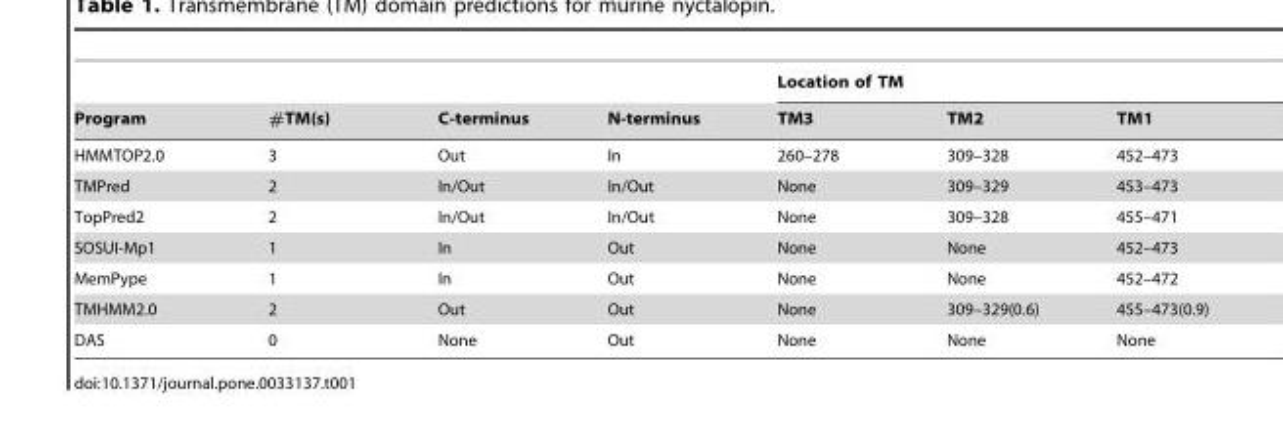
<table><thead><tr><td rowspan="2">Program</td><td rowspan="2">#TM(s)</td><td rowspan="2">C-terminus</td><td rowspan="2">N-terminus</td><td colspan="3">Location of TM</td></tr><tr><td>TM3</td><td>TM2</td><td>TM1</td></tr></thead><tbody><tr><td>HMMTOP2.0</td><td>3</td><td>Out</td><td>In</td><td>260–278</td><td>309–328</td><td>452–473</td></tr><tr><td>TMPred</td><td>2</td><td>In/Out</td><td>In/Out</td><td>None</td><td>309–329</td><td>453–473</td></tr><tr><td>TopPred2</td><td>2</td><td>In/Out</td><td>In/Out</td><td>None</td><td>309–328</td><td>455–471</td></tr><tr><td>SOSUI-Mp1</td><td>1</td><td>In</td><td>Out</td><td>None</td><td>None</td><td>452–473</td></tr><tr><td>MemPype</td><td>1</td><td>In</td><td>Out</td><td>None</td><td>None</td><td>452–472</td></tr><tr><td>TMHMM2.0</td><td>2</td><td>Out</td><td>Out</td><td>None</td><td>309–329(0.6)</td><td>455–473(0.9)</td></tr><tr><td>DAS</td><td>0</td><td>None</td><td>Out</td><td>None</td><td>None</td><td>None</td></tr></tbody></table>